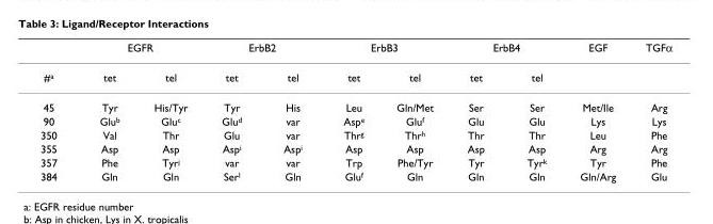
<table><thead><tr><td rowspan="2">#<sup>a</sup></td><td colspan="2">EGFR</td><td colspan="2">ErbB2</td><td colspan="2">ErbB3</td><td colspan="2">ErbB4</td><td rowspan="2">EGF</td><td rowspan="2">TGFα</td></tr><tr><td>tet</td><td>tel</td><td>tet</td><td>tel</td><td>tet</td><td>tel</td><td>tet</td><td>tel</td></tr></thead><tbody><tr><td>45</td><td>Tyr</td><td>His/Tyr</td><td>Tyr</td><td>His</td><td>Leu</td><td>Gln/Met</td><td>Ser</td><td>Ser</td><td>Met/Ile</td><td>Arg</td></tr><tr><td>90</td><td>Glu<sup>b</sup></td><td>Glu<sup>c</sup></td><td>Glu<sup>d</sup></td><td>var</td><td>Asp<sup>e</sup></td><td>Glu<sup>f</sup></td><td>Glu</td><td>Glu</td><td>Lys</td><td>Lys</td></tr><tr><td>350</td><td>Val</td><td>Thr</td><td>Glu</td><td>var</td><td>Thr<sup>g</sup></td><td>Thr<sup>h</sup></td><td>Thr</td><td>Thr</td><td>Leu</td><td>Phe</td></tr><tr><td>355</td><td>Asp</td><td>Asp</td><td>Asp<sup>i</sup></td><td>Asp<sup>i</sup></td><td>Asp</td><td>Asp</td><td>Asp</td><td>Asp</td><td>Arg</td><td>Arg</td></tr><tr><td>357</td><td>Phe</td><td>Tyr<sup>j</sup></td><td>var</td><td>var</td><td>Trp</td><td>Phe/Tyr</td><td>Tyr</td><td>Tyr<sup>k</sup></td><td>Tyr</td><td>Phe</td></tr><tr><td>384</td><td>Gln</td><td>Gln</td><td>Ser<sup>l</sup></td><td>Gln</td><td>Glu<sup>f</sup></td><td>Gln</td><td>Gln</td><td>Gln</td><td>Gln/Arg</td><td>Glu</td></tr></tbody></table>